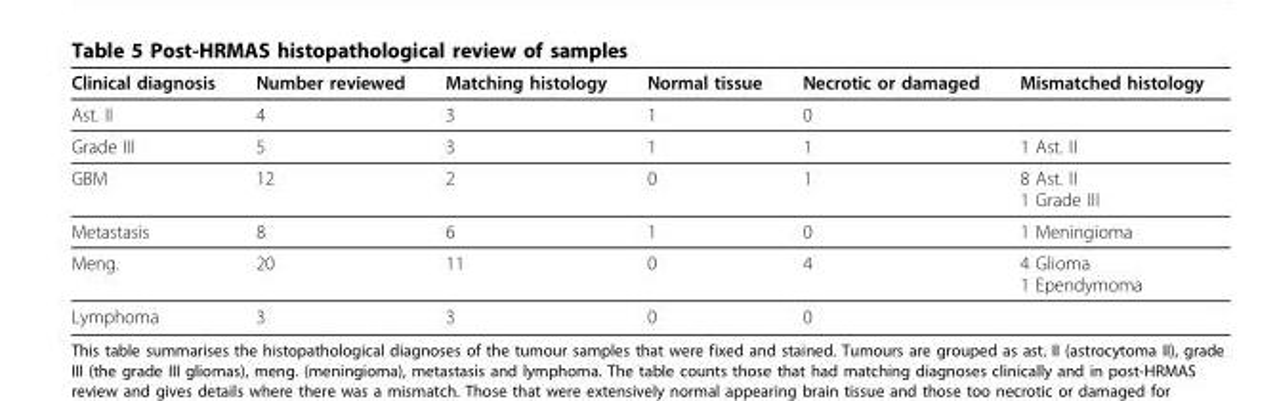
<table><thead><tr><td>Clinical diagnosis</td><td>Number reviewed</td><td>Matching histology</td><td>Normal tissue</td><td>Necrotic or damaged</td><td>Mismatched histology</td></tr></thead><tbody><tr><td>Ast. II</td><td>4</td><td>3</td><td>1</td><td>0</td><td></td></tr><tr><td>Grade III</td><td>5</td><td>3</td><td>1</td><td>1</td><td>1 Ast. II</td></tr><tr><td>GBM</td><td>12</td><td>2</td><td>0</td><td>1</td><td>8 Ast. II 1 Grade III</td></tr><tr><td>Metastasis</td><td>8</td><td>6</td><td>1</td><td>0</td><td>1 Meningioma</td></tr><tr><td>Meng.</td><td>20</td><td>11</td><td>0</td><td>4</td><td>4 Glioma 1 Ependymoma</td></tr><tr><td>Lymphoma</td><td>3</td><td>3</td><td>0</td><td>0</td><td></td></tr></tbody></table>